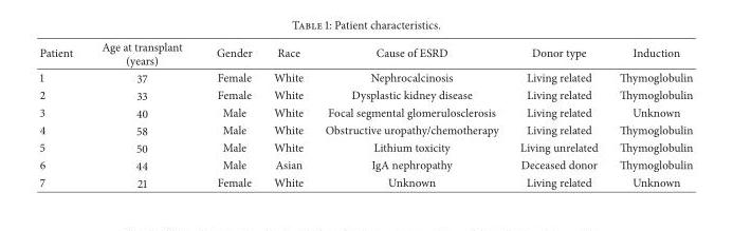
<table><thead><tr><td>Patient</td><td>Age at transplant (years)</td><td>Gender</td><td>Race</td><td>Cause of ESRD</td><td>Donor type</td><td>Induction</td></tr></thead><tbody><tr><td>1</td><td>37</td><td>Female</td><td>White</td><td>Nephrocalcinosis</td><td>Living related</td><td>Thymoglobulin</td></tr><tr><td>2</td><td>33</td><td>Female</td><td>White</td><td>Dysplastic kidney disease</td><td>Living related</td><td>Thymoglobulin</td></tr><tr><td>3</td><td>40</td><td>Male</td><td>White</td><td>Focal segmental glomerulosclerosis</td><td>Living related</td><td>Unknown</td></tr><tr><td>4</td><td>58</td><td>Male</td><td>White</td><td>Obstructive uropathy/chemotherapy</td><td>Living related</td><td>Thymoglobulin</td></tr><tr><td>5</td><td>50</td><td>Male</td><td>White</td><td>Lithium toxicity</td><td>Living unrelated</td><td>Thymoglobulin</td></tr><tr><td>6</td><td>44</td><td>Male</td><td>Asian</td><td>IgA nephropathy</td><td>Deceased donor</td><td>Thymoglobulin</td></tr><tr><td>7</td><td>21</td><td>Female</td><td>White</td><td>Unknown</td><td>Living related</td><td>Unknown</td></tr></tbody></table>